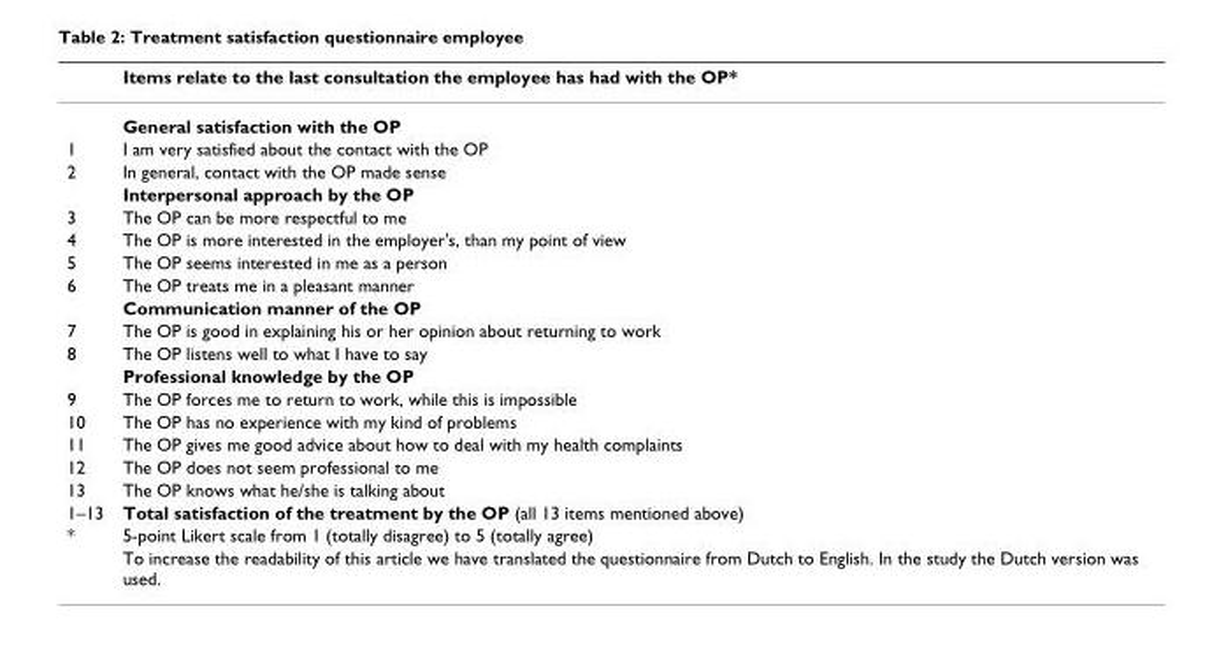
<table><thead><tr><td></td><td>Items relate to the last consultation the employee has had with the OP*</td></tr></thead><tbody><tr><td></td><td>General satisfaction with the OP</td></tr><tr><td>1</td><td>I am very satisfied about the contact with the OP</td></tr><tr><td rowspan="2">2</td><td>In general, contact with the OP made sense</td></tr><tr><td>Interpersonal approach by the OP</td></tr><tr><td>3</td><td>The OP can be more respectful to me</td></tr><tr><td>4</td><td>The OP is more interested in the employer&#x27;s, than my point of view</td></tr><tr><td>5</td><td>The OP seems interested in me as a person</td></tr><tr><td rowspan="2">6</td><td>The OP treats me in a pleasant manner</td></tr><tr><td>Communication manner of the OP</td></tr><tr><td>7</td><td>The OP is good in explaining his or her opinion about returning to work</td></tr><tr><td rowspan="2">8</td><td>The OP listens well to what I have to say</td></tr><tr><td>Professional knowledge by the OP</td></tr><tr><td>9</td><td>The OP forces me to return to work, while this is impossible</td></tr><tr><td>10</td><td>The OP has no experience with my kind of problems</td></tr><tr><td>11</td><td>The OP gives me good advice about how to deal with my health complaints</td></tr><tr><td>12</td><td>The OP does not seem professional to me</td></tr><tr><td>13</td><td>The OP knows what he/she is talking about</td></tr><tr><td>1–13</td><td>Total satisfaction of the treatment by the OP (all 13 items mentioned above)</td></tr><tr><td rowspan="2">*</td><td>5-point Likert scale from 1 (totally disagree) to 5 (totally agree)</td></tr><tr><td>To increase the readability of this article we have translated the questionnaire from Dutch to English. In the study the Dutch version was used.</td></tr></tbody></table>